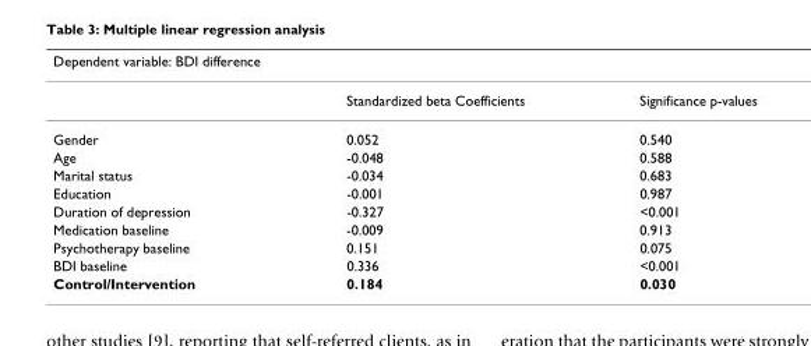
<table><thead><tr><td colspan="3">Dependent variable: BDI difference</td></tr><tr><td></td><td>Standardized beta Coefficients</td><td>Significance p-values</td></tr></thead><tbody><tr><td>Gender</td><td>0.052</td><td>0.540</td></tr><tr><td>Age</td><td>-0.048</td><td>0.588</td></tr><tr><td>Marital status</td><td>-0.034</td><td>0.683</td></tr><tr><td>Education</td><td>-0.001</td><td>0.987</td></tr><tr><td>Duration of depression</td><td>-0.327</td><td>&lt;0.001</td></tr><tr><td>Medication baseline</td><td>-0.009</td><td>0.913</td></tr><tr><td>Psychotherapy baseline</td><td>0.151</td><td>0.075</td></tr><tr><td>BDI baseline</td><td>0.336</td><td>&lt;0.001</td></tr><tr><td>Control/Intervention</td><td>0.184</td><td>0.030</td></tr></tbody></table>